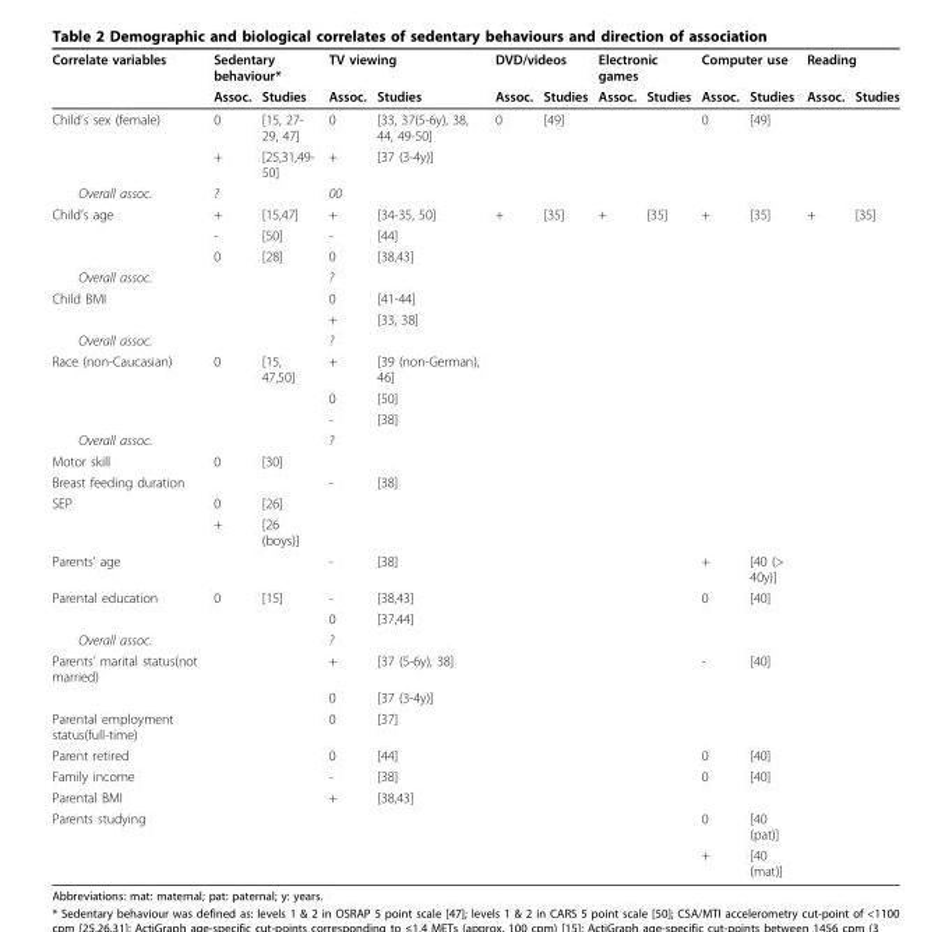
<table><thead><tr><td rowspan="2">Correlate variables</td><td colspan="2">Sedentary behaviour*</td><td colspan="2">TV viewing</td><td colspan="2">DVD/videos</td><td colspan="2">Electronic games</td><td colspan="2">Computer use</td><td colspan="2">Reading</td></tr><tr><td>Assoc.</td><td>Studies</td><td>Assoc.</td><td>Studies</td><td>Assoc.</td><td>Studies</td><td>Assoc.</td><td>Studies</td><td>Assoc.</td><td>Studies</td><td>Assoc.</td><td>Studies</td></tr></thead><tbody><tr><td rowspan="2">Child’s sex (female)</td><td>0</td><td>[15, 27- 29, 47]</td><td>0</td><td>[33, 37(5-6y), 38, 44, 49-50]</td><td>0</td><td>[49]</td><td></td><td></td><td>0</td><td>[49]</td><td></td><td></td></tr><tr><td>+</td><td>[25,31,49- 50]</td><td>+</td><td>[37 (3-4y)]</td><td></td><td></td><td></td><td></td><td></td><td></td><td></td><td></td></tr><tr><td>Overall assoc.</td><td>?</td><td></td><td>00</td><td></td><td></td><td></td><td></td><td></td><td></td><td></td><td></td><td></td></tr><tr><td rowspan="3">Child’s age</td><td>+</td><td>[15,47]</td><td>+</td><td>[34-35, 50]</td><td>+</td><td>[35]</td><td>+</td><td>[35]</td><td>+</td><td>[35]</td><td>+</td><td>[35]</td></tr><tr><td>-</td><td>[50]</td><td>-</td><td>[44]</td><td></td><td></td><td></td><td></td><td></td><td></td><td></td><td></td></tr><tr><td>0</td><td>[28]</td><td>0</td><td>[38,43]</td><td></td><td></td><td></td><td></td><td></td><td></td><td></td><td></td></tr><tr><td>Overall assoc.</td><td></td><td></td><td>?</td><td></td><td></td><td></td><td></td><td></td><td></td><td></td><td></td><td></td></tr><tr><td rowspan="2">Child BMI</td><td></td><td></td><td>0</td><td>[41-44]</td><td></td><td></td><td></td><td></td><td></td><td></td><td></td><td></td></tr><tr><td></td><td></td><td>+</td><td>[33, 38]</td><td></td><td></td><td></td><td></td><td></td><td></td><td></td><td></td></tr><tr><td>Overall assoc.</td><td></td><td></td><td>?</td><td></td><td></td><td></td><td></td><td></td><td></td><td></td><td></td><td></td></tr><tr><td rowspan="3">Race (non-Caucasian)</td><td>0</td><td>[15, 47,50]</td><td>+</td><td>[39 (non-German), 46]</td><td></td><td></td><td></td><td></td><td></td><td></td><td></td><td></td></tr><tr><td></td><td></td><td>0</td><td>[50]</td><td></td><td></td><td></td><td></td><td></td><td></td><td></td><td></td></tr><tr><td></td><td></td><td>-</td><td>[38]</td><td></td><td></td><td></td><td></td><td></td><td></td><td></td><td></td></tr><tr><td>Overall assoc.</td><td></td><td></td><td>?</td><td></td><td></td><td></td><td></td><td></td><td></td><td></td><td></td><td></td></tr><tr><td>Motor skill</td><td>0</td><td>[30]</td><td></td><td></td><td></td><td></td><td></td><td></td><td></td><td></td><td></td><td></td></tr><tr><td>Breast feeding duration</td><td></td><td></td><td>-</td><td>[38]</td><td></td><td></td><td></td><td></td><td></td><td></td><td></td><td></td></tr><tr><td rowspan="2">SEP</td><td>0</td><td>[26]</td><td></td><td></td><td></td><td></td><td></td><td></td><td></td><td></td><td></td><td></td></tr><tr><td>+</td><td>[26 (boys)]</td><td></td><td></td><td></td><td></td><td></td><td></td><td></td><td></td><td></td><td></td></tr><tr><td>Parents’ age</td><td></td><td></td><td>-</td><td>[38]</td><td></td><td></td><td></td><td></td><td>+</td><td>[40 (&gt; 40y)]</td><td></td><td></td></tr><tr><td rowspan="2">Parental education</td><td>0</td><td>[15]</td><td>-</td><td>[38,43]</td><td></td><td></td><td></td><td></td><td>0</td><td>[40]</td><td></td><td></td></tr><tr><td></td><td></td><td>0</td><td>[37,44]</td><td></td><td></td><td></td><td></td><td></td><td></td><td></td><td></td></tr><tr><td>Overall assoc.</td><td></td><td></td><td>?</td><td></td><td></td><td></td><td></td><td></td><td></td><td></td><td></td><td></td></tr><tr><td rowspan="2">Parents’ marital status(not married)</td><td></td><td></td><td>+</td><td>[37 (5-6y), 38]</td><td></td><td></td><td></td><td></td><td>-</td><td>[40]</td><td></td><td></td></tr><tr><td></td><td></td><td>0</td><td>[37 (3-4y)]</td><td></td><td></td><td></td><td></td><td></td><td></td><td></td><td></td></tr><tr><td>Parental employment status(full-time)</td><td></td><td></td><td>0</td><td>[37]</td><td></td><td></td><td></td><td></td><td></td><td></td><td></td><td></td></tr><tr><td>Parent retired</td><td></td><td></td><td>0</td><td>[44]</td><td></td><td></td><td></td><td></td><td>0</td><td>[40]</td><td></td><td></td></tr><tr><td>Family income</td><td></td><td></td><td>-</td><td>[38]</td><td></td><td></td><td></td><td></td><td>0</td><td>[40]</td><td></td><td></td></tr><tr><td>Parental BMI</td><td></td><td></td><td>+</td><td>[38,43]</td><td></td><td></td><td></td><td></td><td></td><td></td><td></td><td></td></tr><tr><td rowspan="2">Parents studying</td><td></td><td></td><td></td><td></td><td></td><td></td><td></td><td></td><td>0</td><td>[40 (pat)]</td><td></td><td></td></tr><tr><td></td><td></td><td></td><td></td><td></td><td></td><td></td><td></td><td>+</td><td>[40 (mat)]</td><td></td><td></td></tr></tbody></table>